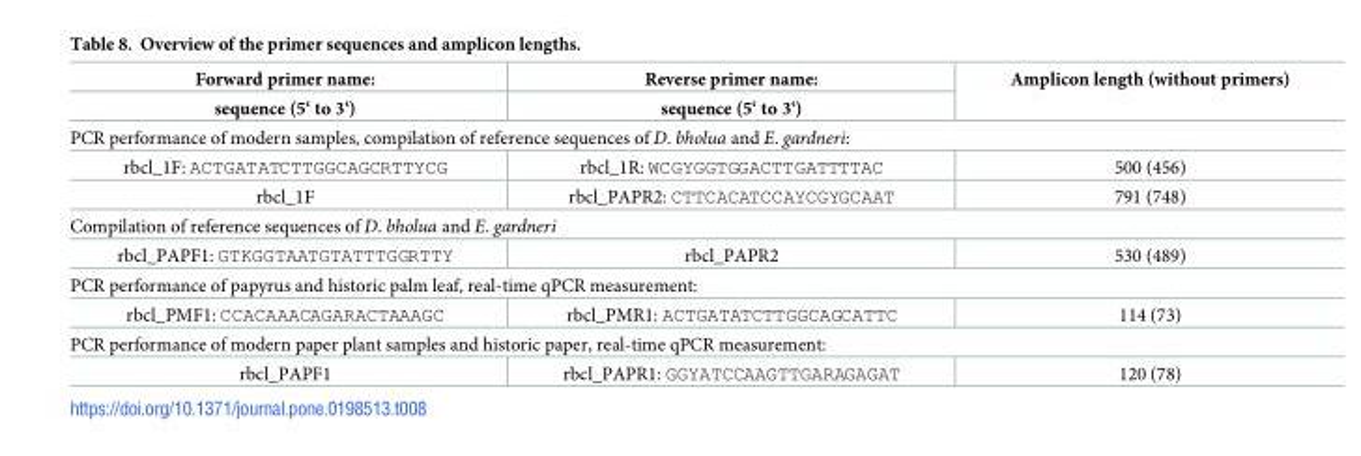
<table><thead><tr><td rowspan="2">Forward primer name: sequence (5‘ to 3‘)</td><td rowspan="2">Reverse primer name: sequence (5‘ to 3‘)</td><td rowspan="2">Amplicon length (without primers)</td></tr><tr></tr></thead><tbody><tr><td colspan="3">PCR performance of modern samples, compilation of reference sequences of D. bholua and E. gardneri:</td></tr><tr><td>rbcl_1F: ACTGATATCTTGGCAGCRTTYCG</td><td>rbcl_1R: WCGYGGTGGACTTGATTTTAC</td><td>500 (456)</td></tr><tr><td>rbcl_1F</td><td>rbcl_PAPR2: CTTCACATCCAYCGYGCAAT</td><td>791 (748)</td></tr><tr><td colspan="3">Compilation of reference sequences of D. bholua and E. gardneri</td></tr><tr><td>rbcl_PAPF1: GTKGGTAATGTATTTGGRTTY</td><td>rbcl_PAPR2</td><td>530 (489)</td></tr><tr><td colspan="3">PCR performance of papyrus and historic palm leaf, real-time qPCR measurement:</td></tr><tr><td>rbcl_PMF1: CCACAAACAGARACTAAAGC</td><td>rbcl_PMR1: ACTGATATCTTGGCAGCATTC</td><td>114 (73)</td></tr><tr><td colspan="3">PCR performance of modern paper plant samples and historic paper, real-time qPCR measurement:</td></tr><tr><td>rbcl_PAPF1</td><td>rbcl_PAPR1: GGYATCCAAGTTGARAGAGAT</td><td>120 (78)</td></tr></tbody></table>